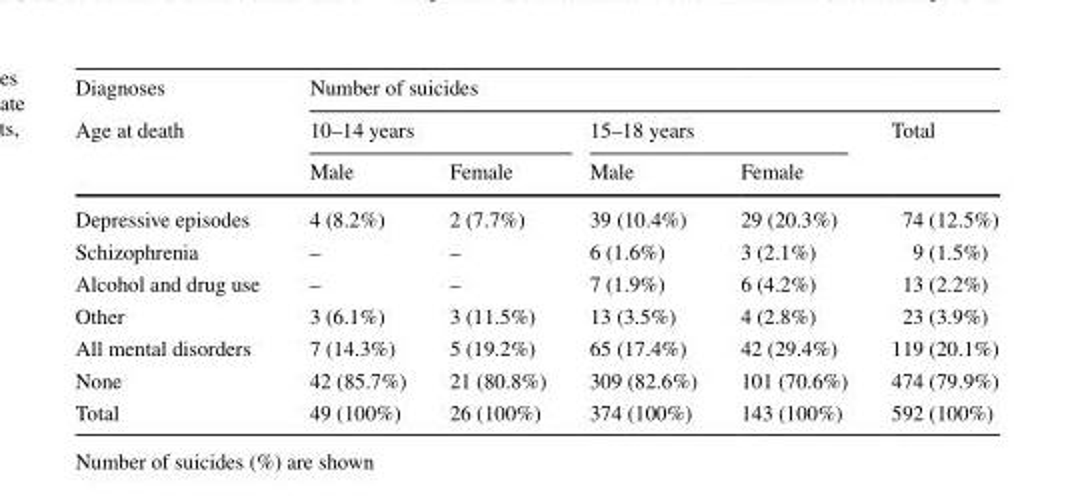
<table><thead><tr><td rowspan="3">Diagnoses Age at death</td><td colspan="5">Number of suicides</td></tr><tr><td colspan="2">10–14 years</td><td colspan="2">15–18 years</td><td rowspan="2">Total</td></tr><tr><td>Male</td><td>Female</td><td>Male</td><td>Female</td></tr></thead><tbody><tr><td>Depressive episodes</td><td>4 (8.2%)</td><td>2 (7.7%)</td><td>39 (10.4%)</td><td>29 (20.3%)</td><td>74 (12.5%)</td></tr><tr><td>Schizophrenia</td><td>–</td><td>–</td><td>6 (1.6%)</td><td>3 (2.1%)</td><td>9 (1.5%)</td></tr><tr><td>Alcohol and drug use</td><td>–</td><td>–</td><td>7 (1.9%)</td><td>6 (4.2%)</td><td>13 (2.2%)</td></tr><tr><td>Other</td><td>3 (6.1%)</td><td>3 (11.5%)</td><td>13 (3.5%)</td><td>4 (2.8%)</td><td>23 (3.9%)</td></tr><tr><td>All mental disorders</td><td>7 (14.3%)</td><td>5 (19.2%)</td><td>65 (17.4%)</td><td>42 (29.4%)</td><td>119 (20.1%)</td></tr><tr><td>None</td><td>42 (85.7%)</td><td>21 (80.8%)</td><td>309 (82.6%)</td><td>101 (70.6%)</td><td>474 (79.9%)</td></tr><tr><td>Total</td><td>49 (100%)</td><td>26 (100%)</td><td>374 (100%)</td><td>143 (100%)</td><td>592 (100%)</td></tr></tbody></table>